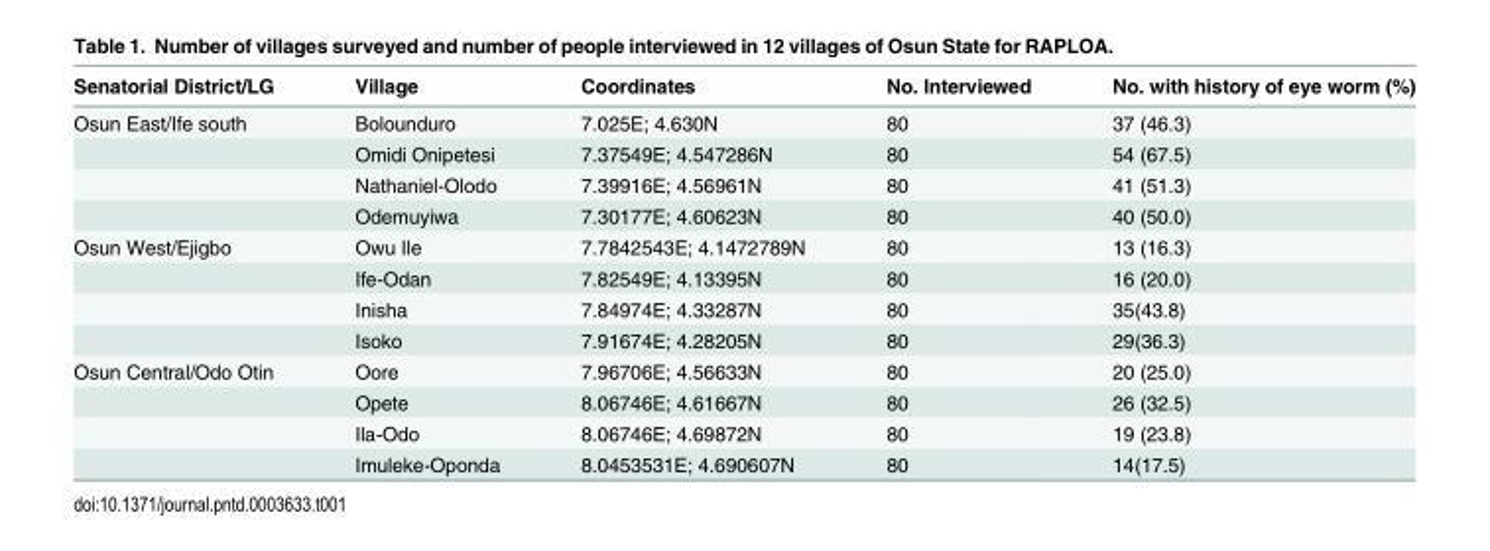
<table><thead><tr><td>Senatorial District/LG</td><td>Village</td><td>Coordinates</td><td>No. Interviewed</td><td>No. with history of eye worm (%)</td></tr></thead><tbody><tr><td rowspan="4">Osun East/Ife south</td><td>Bolounduro</td><td>7.025E; 4.630N</td><td>80</td><td>37 (46.3)</td></tr><tr><td>Omidi Onipetesi</td><td>7.37549E; 4.547286N</td><td>80</td><td>54 (67.5)</td></tr><tr><td>Nathaniel-Olodo</td><td>7.39916E; 4.56961N</td><td>80</td><td>41 (51.3)</td></tr><tr><td>Odemuyiwa</td><td>7.30177E; 4.60623N</td><td>80</td><td>40 (50.0)</td></tr><tr><td rowspan="4">Osun West/Ejigbo</td><td>Owu Ile</td><td>7.7842543E; 4.1472789N</td><td>80</td><td>13 (16.3)</td></tr><tr><td>Ife-Odan</td><td>7.82549E; 4.13395N</td><td>80</td><td>16 (20.0)</td></tr><tr><td>Inisha</td><td>7.84974E; 4.33287N</td><td>80</td><td>35(43.8)</td></tr><tr><td>Isoko</td><td>7.91674E; 4.28205N</td><td>80</td><td>29(36.3)</td></tr><tr><td rowspan="4">Osun Central/Odo Otin</td><td>Oore</td><td>7.96706E; 4.56633N</td><td>80</td><td>20 (25.0)</td></tr><tr><td>Opete</td><td>8.06746E; 4.61667N</td><td>80</td><td>26 (32.5)</td></tr><tr><td>Ila-Odo</td><td>8.06746E; 4.69872N</td><td>80</td><td>19 (23.8)</td></tr><tr><td>Imuleke-Oponda</td><td>8.0453531E; 4.690607N</td><td>80</td><td>14(17.5)</td></tr></tbody></table>